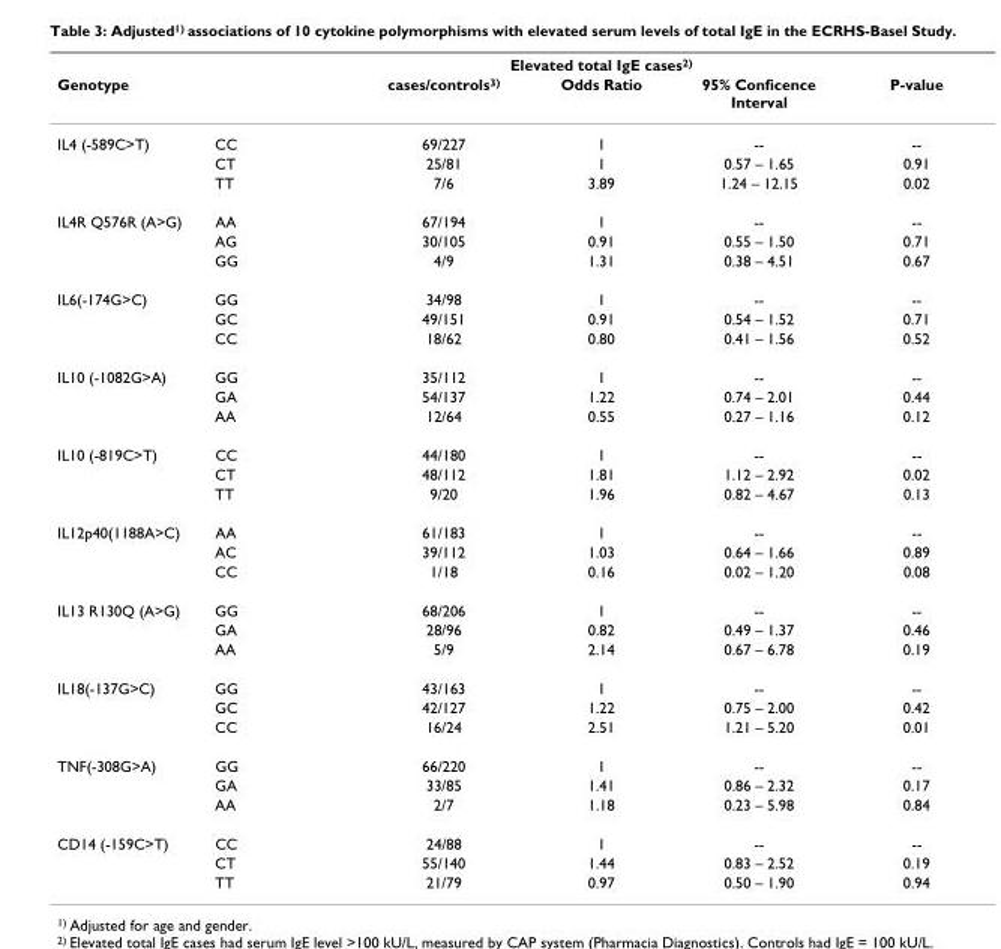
<table><thead><tr><td rowspan="2">Genotype</td><td colspan="5">Elevated total IgE cases<sup>2)</sup></td></tr><tr><td></td><td>cases/controls<sup>3)</sup></td><td>Odds Ratio</td><td>95% Conficence Interval</td><td>P-value</td></tr></thead><tbody><tr><td rowspan="3">IL4 (-589C&gt;T)</td><td>CC</td><td>69/227</td><td>1</td><td>--</td><td>--</td></tr><tr><td>CT</td><td>25/81</td><td>1</td><td>0.57 – 1.65</td><td>0.91</td></tr><tr><td>TT</td><td>7/6</td><td>3.89</td><td>1.24 – 12.15</td><td>0.02</td></tr><tr><td rowspan="3">IL4R Q576R (A&gt;G)</td><td>AA</td><td>67/194</td><td>1</td><td>--</td><td>--</td></tr><tr><td>AG</td><td>30/105</td><td>0.91</td><td>0.55 – 1.50</td><td>0.71</td></tr><tr><td>GG</td><td>4/9</td><td>1.31</td><td>0.38 – 4.51</td><td>0.67</td></tr><tr><td rowspan="3">IL6(-174G&gt;C)</td><td>GG</td><td>34/98</td><td>1</td><td>--</td><td>--</td></tr><tr><td>GC</td><td>49/151</td><td>0.91</td><td>0.54 – 1.52</td><td>0.71</td></tr><tr><td>CC</td><td>18/62</td><td>0.80</td><td>0.41 – 1.56</td><td>0.52</td></tr><tr><td rowspan="3">IL10 (-1082G&gt;A)</td><td>GG</td><td>35/112</td><td>1</td><td>--</td><td>--</td></tr><tr><td>GA</td><td>54/137</td><td>1.22</td><td>0.74 – 2.01</td><td>0.44</td></tr><tr><td>AA</td><td>12/64</td><td>0.55</td><td>0.27 – 1.16</td><td>0.12</td></tr><tr><td rowspan="3">IL10 (-819C&gt;T)</td><td>CC</td><td>44/180</td><td>1</td><td>--</td><td>--</td></tr><tr><td>CT</td><td>48/112</td><td>1.81</td><td>1.12 – 2.92</td><td>0.02</td></tr><tr><td>TT</td><td>9/20</td><td>1.96</td><td>0.82 – 4.67</td><td>0.13</td></tr><tr><td rowspan="3">IL12p40(1188A&gt;C)</td><td>AA</td><td>61/183</td><td>1</td><td>--</td><td>--</td></tr><tr><td>AC</td><td>39/112</td><td>1.03</td><td>0.64 – 1.66</td><td>0.89</td></tr><tr><td>CC</td><td>1/18</td><td>0.16</td><td>0.02 – 1.20</td><td>0.08</td></tr><tr><td rowspan="3">IL13 R130Q (A&gt;G)</td><td>GG</td><td>68/206</td><td>1</td><td>--</td><td>--</td></tr><tr><td>GA</td><td>28/96</td><td>0.82</td><td>0.49 – 1.37</td><td>0.46</td></tr><tr><td>AA</td><td>5/9</td><td>2.14</td><td>0.67 – 6.78</td><td>0.19</td></tr><tr><td rowspan="3">IL18(-137G&gt;C)</td><td>GG</td><td>43/163</td><td>1</td><td>--</td><td>--</td></tr><tr><td>GC</td><td>42/127</td><td>1.22</td><td>0.75 – 2.00</td><td>0.42</td></tr><tr><td>CC</td><td>16/24</td><td>2.51</td><td>1.21 – 5.20</td><td>0.01</td></tr><tr><td rowspan="3">TNF(-308G&gt;A)</td><td>GG</td><td>66/220</td><td>1</td><td>--</td><td>--</td></tr><tr><td>GA</td><td>33/85</td><td>1.41</td><td>0.86 – 2.32</td><td>0.17</td></tr><tr><td>AA</td><td>2/7</td><td>1.18</td><td>0.23 – 5.98</td><td>0.84</td></tr><tr><td rowspan="3">CD14 (-159C&gt;T)</td><td>CC</td><td>24/88</td><td>1</td><td>--</td><td>--</td></tr><tr><td>CT</td><td>55/140</td><td>1.44</td><td>0.83 – 2.52</td><td>0.19</td></tr><tr><td>TT</td><td>21/79</td><td>0.97</td><td>0.50 – 1.90</td><td>0.94</td></tr></tbody></table>